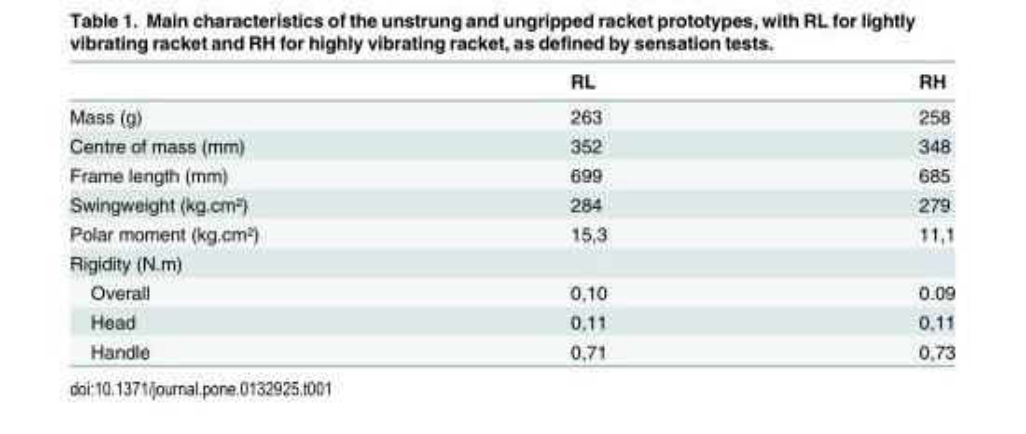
<table><thead><tr><td></td><td>RL</td><td>RH</td></tr></thead><tbody><tr><td>Mass (g)</td><td>263</td><td>258</td></tr><tr><td>Centre of mass (mm)</td><td>352</td><td>348</td></tr><tr><td>Frame length (mm)</td><td>699</td><td>685</td></tr><tr><td>Swingweight (kg.cm²)</td><td>284</td><td>279</td></tr><tr><td>Polar moment (kg.cm²)</td><td>15,3</td><td>11,1</td></tr><tr><td colspan="3">Rigidity (N.m)</td></tr><tr><td>Overall</td><td>0,10</td><td>0.09</td></tr><tr><td>Head</td><td>0,11</td><td>0,11</td></tr><tr><td>Handle</td><td>0,71</td><td>0,73</td></tr></tbody></table>